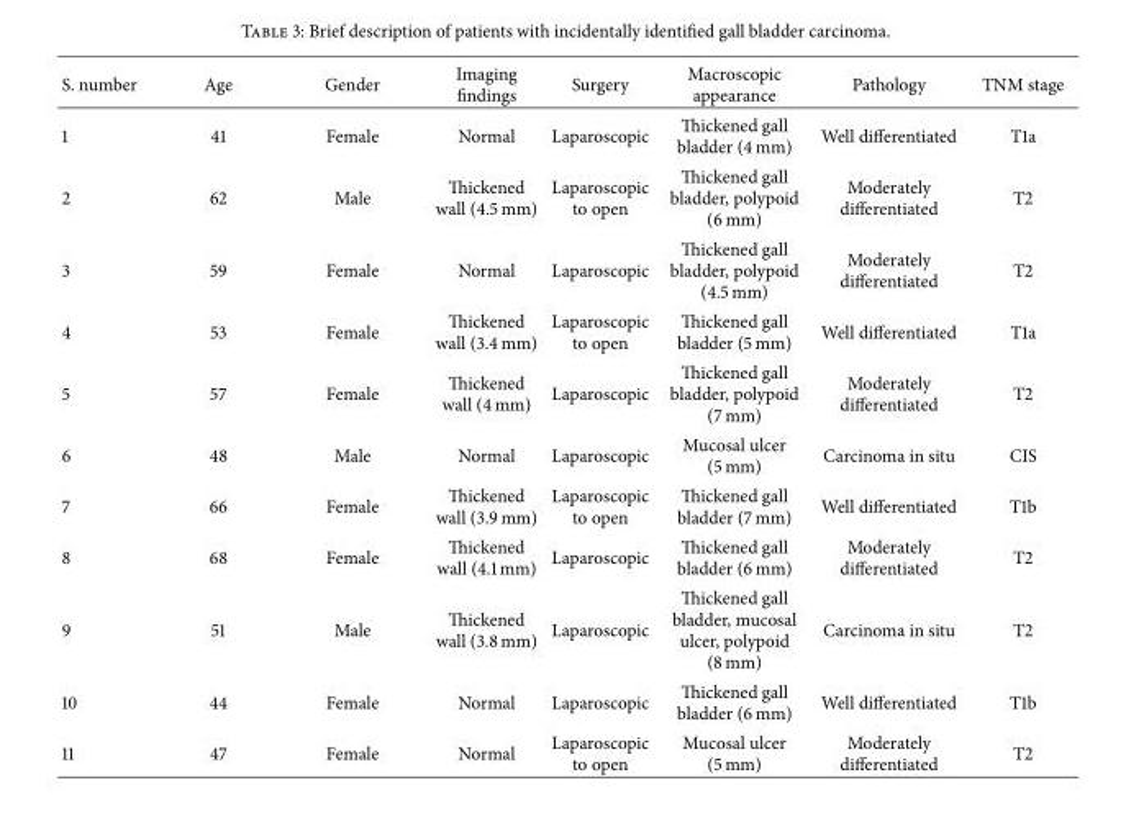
<table><thead><tr><td>S. number</td><td>Age</td><td>Gender</td><td>Imaging findings</td><td>Surgery</td><td>Macroscopic appearance</td><td>Pathology</td><td>TNM stage</td></tr></thead><tbody><tr><td>1</td><td>41</td><td>Female</td><td>Normal</td><td>Laparoscopic</td><td>Thickened gall bladder (4 mm)</td><td>Well differentiated</td><td>T1a</td></tr><tr><td>2</td><td>62</td><td>Male</td><td>Thickened wall (4.5 mm)</td><td>Laparoscopic to open</td><td>Thickened gall bladder, polypoid (6 mm)</td><td>Moderately differentiated</td><td>T2</td></tr><tr><td>3</td><td>59</td><td>Female</td><td>Normal</td><td>Laparoscopic</td><td>Thickened gall bladder, polypoid (4.5 mm)</td><td>Moderately differentiated</td><td>T2</td></tr><tr><td>4</td><td>53</td><td>Female</td><td>Thickened wall (3.4 mm)</td><td>Laparoscopic to open</td><td>Thickened gall bladder (5 mm)</td><td>Well differentiated</td><td>T1a</td></tr><tr><td>5</td><td>57</td><td>Female</td><td>Thickened wall (4 mm)</td><td>Laparoscopic</td><td>Thickened gall bladder, polypoid (7 mm)</td><td>Moderately differentiated</td><td>T2</td></tr><tr><td>6</td><td>48</td><td>Male</td><td>Normal</td><td>Laparoscopic</td><td>Mucosal ulcer (5 mm)</td><td>Carcinoma in situ</td><td>CIS</td></tr><tr><td>7</td><td>66</td><td>Female</td><td>Thickened wall (3.9 mm)</td><td>Laparoscopic to open</td><td>Thickened gall bladder (7 mm)</td><td>Well differentiated</td><td>T1b</td></tr><tr><td>8</td><td>68</td><td>Female</td><td>Thickened wall (4.1 mm)</td><td>Laparoscopic</td><td>Thickened gall bladder (6 mm)</td><td>Moderately differentiated</td><td>T2</td></tr><tr><td>9</td><td>51</td><td>Male</td><td>Thickened wall (3.8 mm)</td><td>Laparoscopic</td><td>Thickened gall bladder, mucosal ulcer, polypoid (8 mm)</td><td>Carcinoma in situ</td><td>T2</td></tr><tr><td>10</td><td>44</td><td>Female</td><td>Normal</td><td>Laparoscopic</td><td>Thickened gall bladder (6 mm)</td><td>Well differentiated</td><td>T1b</td></tr><tr><td>11</td><td>47</td><td>Female</td><td>Normal</td><td>Laparoscopic to open</td><td>Mucosal ulcer (5 mm)</td><td>Moderately differentiated</td><td>T2</td></tr></tbody></table>